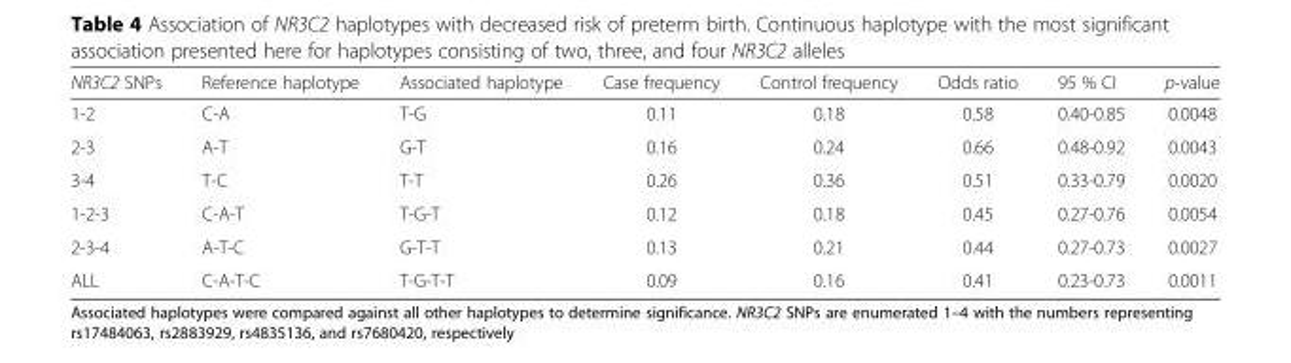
<table><thead><tr><td>NR3C2 SNPs</td><td>Reference haplotype</td><td>Associated haplotype</td><td>Case frequency</td><td>Control frequency</td><td>Odds ratio</td><td>95 % CI</td><td>p-value</td></tr></thead><tbody><tr><td>1-2</td><td>C-A</td><td>T-G</td><td>0.11</td><td>0.18</td><td>0.58</td><td>0.40-0.85</td><td>0.0048</td></tr><tr><td>2-3</td><td>A-T</td><td>G-T</td><td>0.16</td><td>0.24</td><td>0.66</td><td>0.48-0.92</td><td>0.0043</td></tr><tr><td>3-4</td><td>T-C</td><td>T-T</td><td>0.26</td><td>0.36</td><td>0.51</td><td>0.33-0.79</td><td>0.0020</td></tr><tr><td>1-2-3</td><td>C-A-T</td><td>T-G-T</td><td>0.12</td><td>0.18</td><td>0.45</td><td>0.27-0.76</td><td>0.0054</td></tr><tr><td>2-3-4</td><td>A-T-C</td><td>G-T-T</td><td>0.13</td><td>0.21</td><td>0.44</td><td>0.27-0.73</td><td>0.0027</td></tr><tr><td>ALL</td><td>C-A-T-C</td><td>T-G-T-T</td><td>0.09</td><td>0.16</td><td>0.41</td><td>0.23-0.73</td><td>0.0011</td></tr></tbody></table>